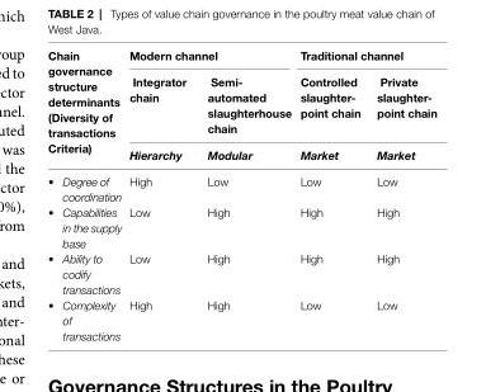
<table><thead><tr><td rowspan="3">chain governance structure determinants (diversity of transactions criteria)</td><td colspan="2">modern channel</td><td colspan="2">traditional channel</td></tr><tr><td rowspan="2">integrator chain Hierarchy</td><td rowspan="2">semi- automated slaughterhouse chain Modular</td><td rowspan="2">controlled slaughter- point chain Market</td><td rowspan="2">Private slaughter- point chain Market</td></tr><tr></tr></thead><tbody><tr><td>• Degree of coordination</td><td>High</td><td>Low</td><td>Low</td><td>Low</td></tr><tr><td>• Capabilities in the supply base</td><td>Low</td><td>High</td><td>High</td><td>High</td></tr><tr><td>• Ability to codify transactions</td><td>Low</td><td>High</td><td>High</td><td>High</td></tr><tr><td>• Complexity of transactions</td><td>High</td><td>High</td><td>Low</td><td>Low</td></tr></tbody></table>